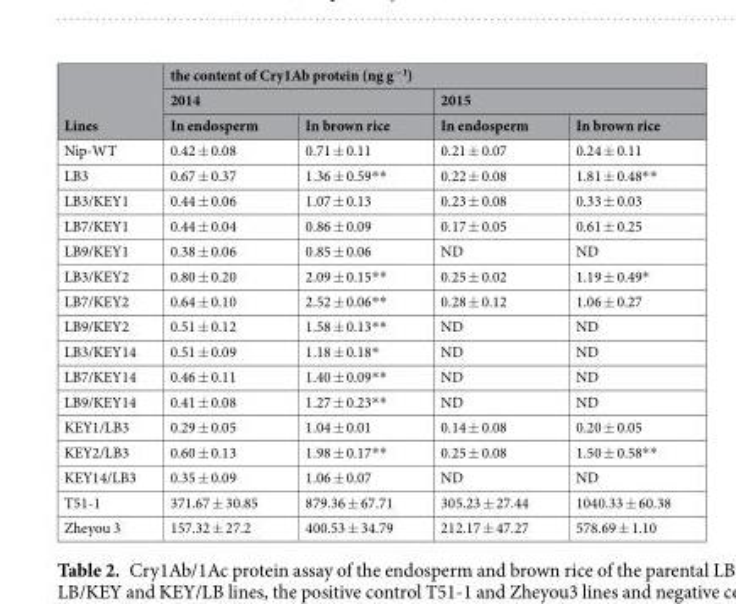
<table><thead><tr><td rowspan="3">Lines</td><td colspan="4">the content of Cry1Ab protein (ng g<sup>−1</sup>)</td></tr><tr><td colspan="2">2014</td><td colspan="2">2015</td></tr><tr><td>In endosperm</td><td>In brown rice</td><td>In endosperm</td><td>In brown rice</td></tr></thead><tbody><tr><td>Nip-WT</td><td>0.42 ± 0.08</td><td>0.71 ± 0.11</td><td>0.21 ± 0.07</td><td>0.24 ± 0.11</td></tr><tr><td>LB3</td><td>0.67 ± 0.37</td><td>1.36 ± 0.59**</td><td>0.22 ± 0.08</td><td>1.81 ± 0.48**</td></tr><tr><td>LB3/KEY1</td><td>0.44 ± 0.06</td><td>1.07 ± 0.13</td><td>0.23 ± 0.08</td><td>0.33 ± 0.03</td></tr><tr><td>LB7/KEY1</td><td>0.44 ± 0.04</td><td>0.86 ± 0.09</td><td>0.17 ± 0.05</td><td>0.61 ± 0.25</td></tr><tr><td>LB9/KEY1</td><td>0.38 ± 0.06</td><td>0.85 ± 0.06</td><td>ND</td><td>ND</td></tr><tr><td>LB3/KEY2</td><td>0.80 ± 0.20</td><td>2.09 ± 0.15**</td><td>0.25 ± 0.02</td><td>1.19 ± 0.49*</td></tr><tr><td>LB7/KEY2</td><td>0.64 ± 0.10</td><td>2.52 ± 0.06**</td><td>0.28 ± 0.12</td><td>1.06 ± 0.27</td></tr><tr><td>LB9/KEY2</td><td>0.51 ± 0.12</td><td>1.58 ± 0.13**</td><td>ND</td><td>ND</td></tr><tr><td>LB3/KEY14</td><td>0.51 ± 0.09</td><td>1.18 ± 0.18*</td><td>ND</td><td>ND</td></tr><tr><td>LB7/KEY14</td><td>0.46 ± 0.11</td><td>1.40 ± 0.09**</td><td>ND</td><td>ND</td></tr><tr><td>LB9/KEY14</td><td>0.41 ± 0.08</td><td>1.27 ± 0.23**</td><td>ND</td><td>ND</td></tr><tr><td>KEY1/LB3</td><td>0.29 ± 0.05</td><td>1.04 ± 0.01</td><td>0.14 ± 0.08</td><td>0.20 ± 0.05</td></tr><tr><td>KEY2/LB3</td><td>0.60 ± 0.13</td><td>1.98 ± 0.17**</td><td>0.25 ± 0.08</td><td>1.50 ± 0.58**</td></tr><tr><td>KEY14/LB3</td><td>0.35 ± 0.09</td><td>1.06 ± 0.07</td><td>ND</td><td>ND</td></tr><tr><td>T51-1</td><td>371.67 ± 30.85</td><td>879.36 ± 67.71</td><td>305.23 ± 27.44</td><td>1040.33 ± 60.38</td></tr><tr><td>Zheyou 3</td><td>157.32 ± 27.2</td><td>400.53 ± 34.79</td><td>212.17 ± 47.27</td><td>578.69 ± 1.10</td></tr></tbody></table>